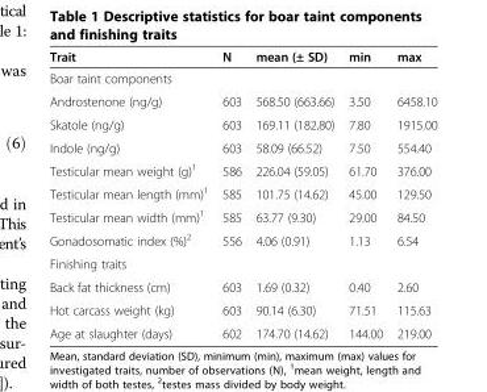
<table><thead><tr><td>Trait</td><td>N</td><td>mean (± SD)</td><td>min</td><td>max</td></tr></thead><tbody><tr><td colspan="5">Boar taint components</td></tr><tr><td>Androstenone (ng/g)</td><td>603</td><td>568.50 (663.66)</td><td>3.50</td><td>6458.10</td></tr><tr><td>Skatole (ng/g)</td><td>603</td><td>169.11 (182.80)</td><td>7.80</td><td>1915.00</td></tr><tr><td>Indole (ng/g)</td><td>603</td><td>58.09 (66.52)</td><td>7.50</td><td>554.40</td></tr><tr><td>Testicular mean weight (g)<sup>1</sup></td><td>586</td><td>226.04 (59.05)</td><td>61.70</td><td>376.00</td></tr><tr><td>Testicular mean length (mm)<sup>1</sup></td><td>585</td><td>101.75 (14.62)</td><td>45.00</td><td>129.50</td></tr><tr><td>Testicular mean width (mm)<sup>1</sup></td><td>585</td><td>63.77 (9.30)</td><td>29.00</td><td>84.50</td></tr><tr><td>Gonadosomatic index (%)<sup>2</sup></td><td>556</td><td>4.06 (0.91)</td><td>1.13</td><td>6.54</td></tr><tr><td colspan="5">Finishing traits</td></tr><tr><td>Back fat thickness (cm)</td><td>603</td><td>1.69 (0.32)</td><td>0.40</td><td>2.60</td></tr><tr><td>Hot carcass weight (kg)</td><td>603</td><td>90.14 (6.30)</td><td>71.51</td><td>115.63</td></tr><tr><td>Age at slaughter (days)</td><td>602</td><td>174.70 (14.62)</td><td>144.00</td><td>219.00</td></tr></tbody></table>